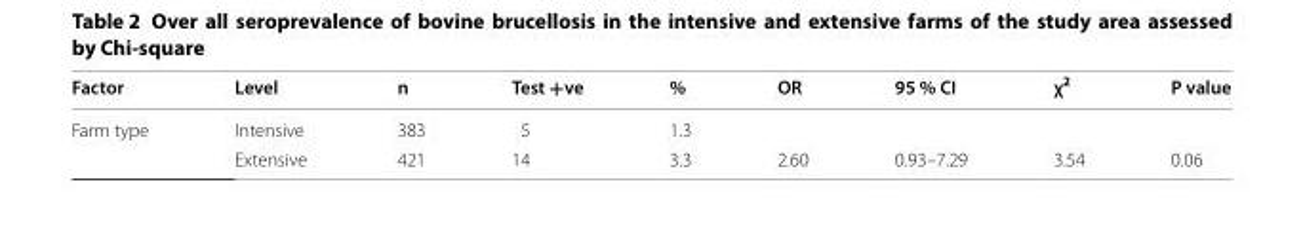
<table><thead><tr><td>Factor</td><td>Level</td><td>n</td><td>Test +ve</td><td>%</td><td>OR</td><td>95 % CI</td><td>χ<sup>2</sup></td><td>P value</td></tr></thead><tbody><tr><td rowspan="2">Farm type</td><td>Intensive</td><td>383</td><td>5</td><td>1.3</td><td></td><td></td><td></td><td></td></tr><tr><td>Extensive</td><td>421</td><td>14</td><td>3.3</td><td>2.60</td><td>0.93–7.29</td><td>3.54</td><td>0.06</td></tr></tbody></table>